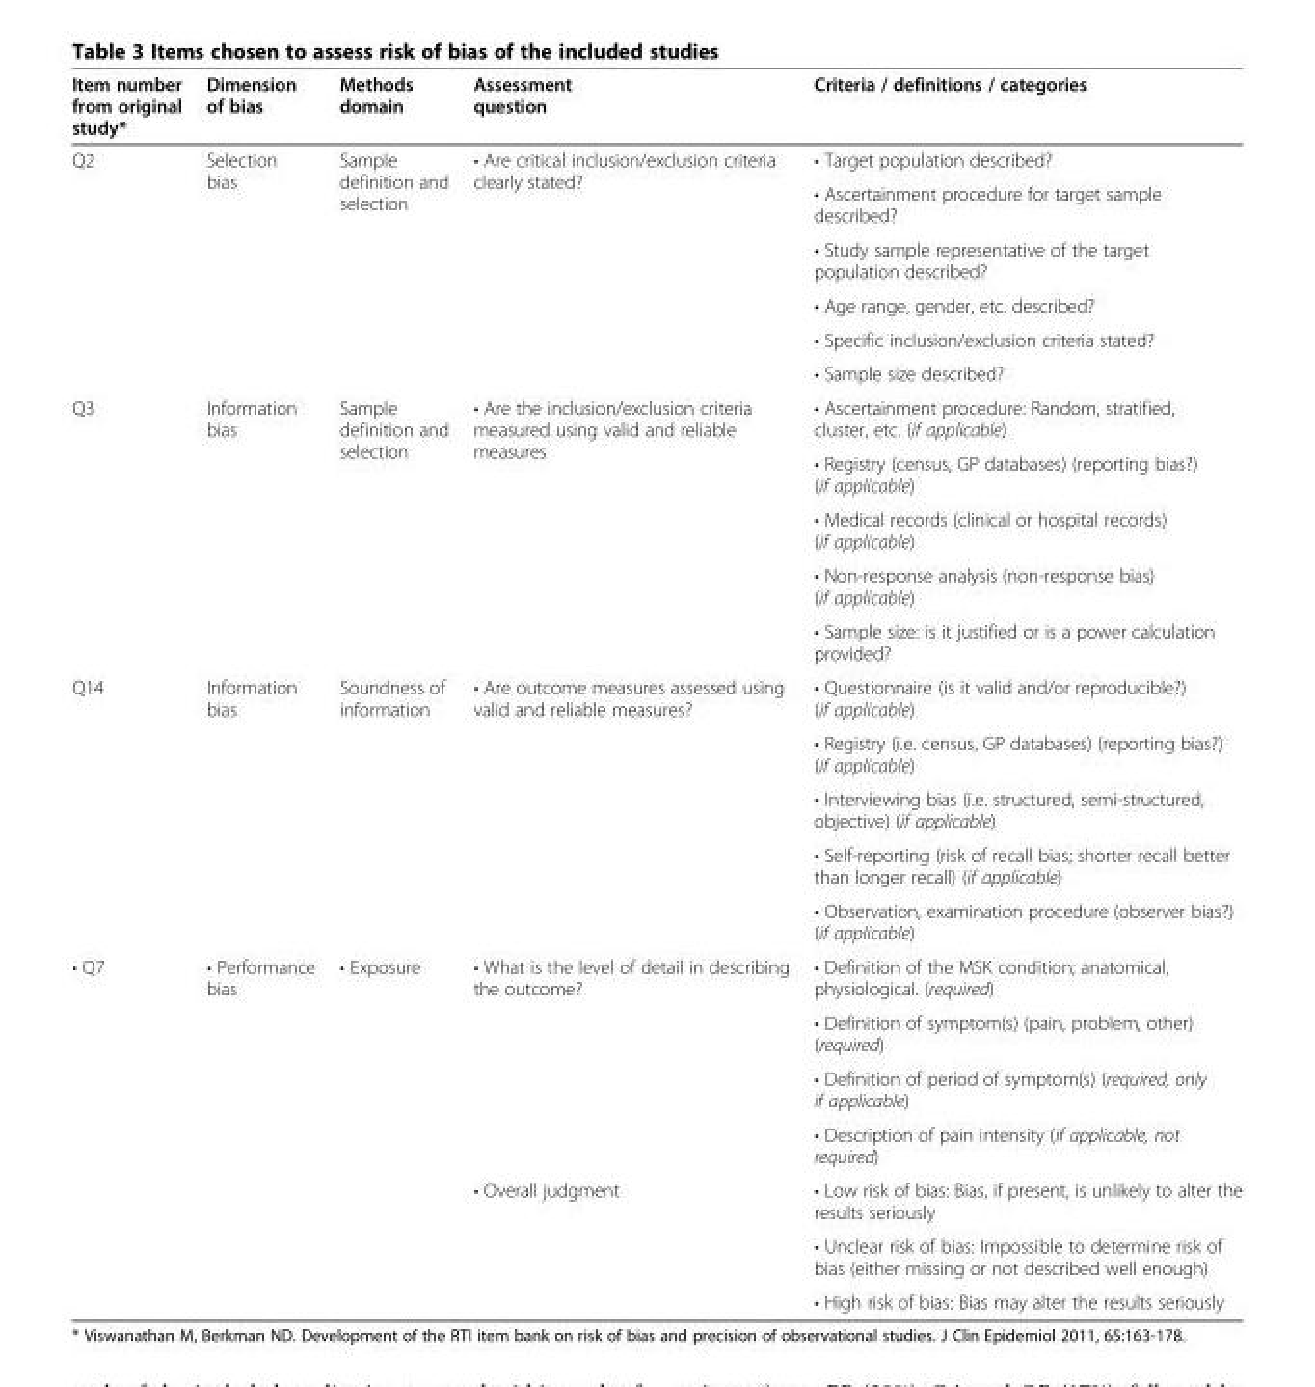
<table><thead><tr><td>Item number from original study*</td><td>Dimension of bias</td><td>Methods domain</td><td>Assessment question</td><td>Criteria / definitions / categories</td></tr></thead><tbody><tr><td rowspan="6">Q2</td><td rowspan="6">Selection bias</td><td rowspan="6">Sample definition and selection</td><td rowspan="6">• Are critical inclusion/exclusion criteria clearly stated?</td><td>• Target population described?</td></tr><tr><td>• Ascertainment procedure for target sample described?</td></tr><tr><td>• Study sample representative of the target population described?</td></tr><tr><td>• Age range, gender, etc. described?</td></tr><tr><td>• Specific inclusion/exclusion criteria stated?</td></tr><tr><td>• Sample size described?</td></tr><tr><td rowspan="5">Q3</td><td rowspan="5">Information bias</td><td rowspan="5">Sample definition and selection</td><td rowspan="5">• Are the inclusion/exclusion criteria measured using valid and reliable measures</td><td>• Ascertainment procedure: Random, stratified, cluster, etc. (if applicable)</td></tr><tr><td>• Registry (census, GP databases) (reporting bias?) (if applicable)</td></tr><tr><td>• Medical records (clinical or hospital records) (if applicable)</td></tr><tr><td>• Non-response analysis (non-response bias) (if applicable)</td></tr><tr><td>• Sample size: is it justified or is a power calculation provided?</td></tr><tr><td rowspan="5">Q14</td><td rowspan="5">Information bias</td><td rowspan="5">Soundness of information</td><td rowspan="5">• Are outcome measures assessed using valid and reliable measures?</td><td>• Questionnaire (is it valid and/or reproducible?) (if applicable)</td></tr><tr><td>• Registry (i.e. census, GP databases) (reporting bias?) (if applicable)</td></tr><tr><td>• Interviewing bias (i.e. structured, semi-structured, objective) (if applicable)</td></tr><tr><td>• Self-reporting (risk of recall bias; shorter recall better than longer recall) (if applicable)</td></tr><tr><td>• Observation, examination procedure (observer bias?) (if applicable)</td></tr><tr><td rowspan="7">• Q7</td><td rowspan="6">• Performance bias</td><td rowspan="6">• Exposure</td><td rowspan="4">• What is the level of detail in describing the outcome?</td><td>• Definition of the MSK condition; anatomical, physiological. (required)</td></tr><tr><td>• Definition of symptom(s) (pain, problem, other) (required)</td></tr><tr><td>• Definition of period of symptom(s) (required, only if applicable)</td></tr><tr><td>• Description of pain intensity (if applicable, not required)</td></tr><tr><td rowspan="2">• Overall judgment</td><td>• Low risk of bias: Bias, if present, is unlikely to alter the results seriously</td></tr><tr><td>• Unclear risk of bias: Impossible to determine risk of bias (either missing or not described well enough)</td></tr><tr><td></td><td></td><td></td><td>• High risk of bias: Bias may alter the results seriously</td></tr></tbody></table>